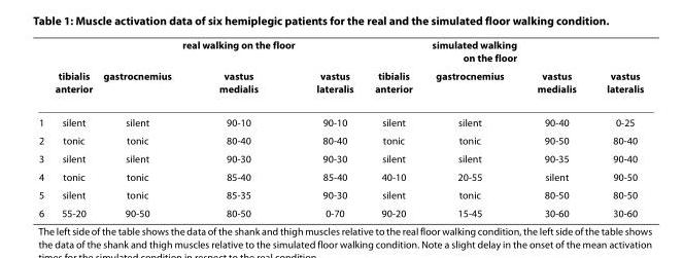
<table><thead><tr><td rowspan="2"></td><td rowspan="2">tibialis anterior</td><td rowspan="2">gastrocnemius</td><td rowspan="2">real walking on the floor vastus medialis</td><td rowspan="2">vastus lateralis</td><td rowspan="2">tibialis anterior</td><td rowspan="2">simulated walking on the floor gastrocnemius</td><td rowspan="2">vastus medialis</td><td rowspan="2">vastus lateralis</td></tr><tr></tr></thead><tbody><tr><td>1</td><td>silent</td><td>silent</td><td>90-10</td><td>90-10</td><td>silent</td><td>silent</td><td>90-40</td><td>0-25</td></tr><tr><td>2</td><td>tonic</td><td>tonic</td><td>80-40</td><td>80-40</td><td>tonic</td><td>tonic</td><td>90-50</td><td>80-40</td></tr><tr><td>3</td><td>silent</td><td>silent</td><td>90-30</td><td>90-30</td><td>silent</td><td>silent</td><td>90-35</td><td>90-40</td></tr><tr><td>4</td><td>tonic</td><td>tonic</td><td>85-40</td><td>85-40</td><td>40-10</td><td>20-55</td><td>silent</td><td>90-50</td></tr><tr><td>5</td><td>silent</td><td>tonic</td><td>85-35</td><td>90-30</td><td>silent</td><td>tonic</td><td>80-50</td><td>80-50</td></tr><tr><td>6</td><td>55-20</td><td>90-50</td><td>80-50</td><td>0-70</td><td>90-20</td><td>15-45</td><td>30-60</td><td>30-60</td></tr></tbody></table>